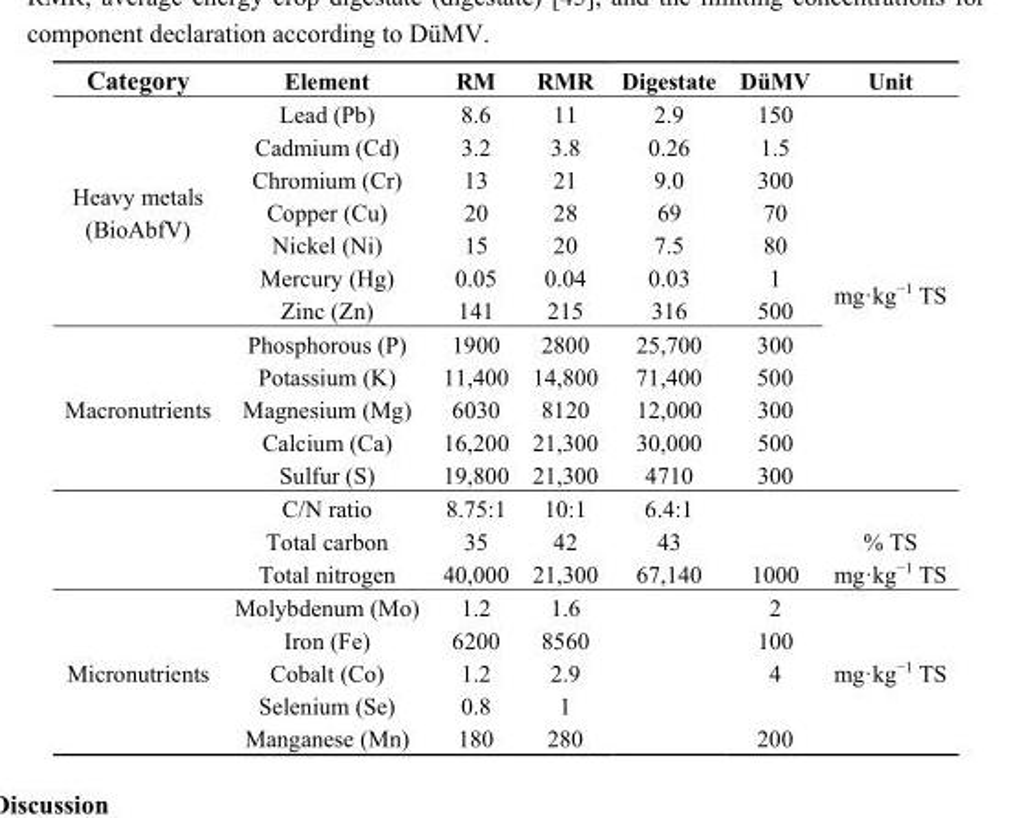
<table><thead><tr><td>Category</td><td>Element</td><td>RM</td><td>RMR</td><td>Digestate</td><td>DüMV</td><td>Unit</td></tr></thead><tbody><tr><td rowspan="7">Heavy metals (BioAbfV)</td><td>Lead (Pb)</td><td>8.6</td><td>11</td><td>2.9</td><td>150</td><td rowspan="12">mg·kg<sup>−1</sup> TS</td></tr><tr><td>Cadmium (Cd)</td><td>3.2</td><td>3.8</td><td>0.26</td><td>1.5</td></tr><tr><td>Chromium (Cr)</td><td>13</td><td>21</td><td>9.0</td><td>300</td></tr><tr><td>Copper (Cu)</td><td>20</td><td>28</td><td>69</td><td>70</td></tr><tr><td>Nickel (Ni)</td><td>15</td><td>20</td><td>7.5</td><td>80</td></tr><tr><td>Mercury (Hg)</td><td>0.05</td><td>0.04</td><td>0.03</td><td>1</td></tr><tr><td>Zinc (Zn)</td><td>141</td><td>215</td><td>316</td><td>500</td></tr><tr><td rowspan="8">Macronutrients</td><td>Phosphorous (P)</td><td>1900</td><td>2800</td><td>25,700</td><td>300</td></tr><tr><td>Potassium (K)</td><td>11,400</td><td>14,800</td><td>71,400</td><td>500</td></tr><tr><td>Magnesium (Mg)</td><td>6030</td><td>8120</td><td>12,000</td><td>300</td></tr><tr><td>Calcium (Ca)</td><td>16,200</td><td>21,300</td><td>30,000</td><td>500</td></tr><tr><td>Sulfur (S)</td><td>19,800</td><td>21,300</td><td>4710</td><td>300</td></tr><tr><td>C/N ratio</td><td>8.75:1</td><td>10:1</td><td>6.4:1</td><td></td><td></td></tr><tr><td>Total carbon</td><td>35</td><td>42</td><td>43</td><td></td><td>% TS</td></tr><tr><td>Total nitrogen</td><td>40,000</td><td>21,300</td><td>67,140</td><td>1000</td><td>mg·kg<sup>−1</sup> TS</td></tr><tr><td rowspan="5">Micronutrients</td><td>Molybdenum (Mo)</td><td>1.2</td><td>1.6</td><td></td><td>2</td><td rowspan="5">mg·kg<sup>−1</sup> TS</td></tr><tr><td>Iron (Fe)</td><td>6200</td><td>8560</td><td></td><td>100</td></tr><tr><td>Cobalt (Co)</td><td>1.2</td><td>2.9</td><td></td><td>4</td></tr><tr><td>Selenium (Se)</td><td>0.8</td><td>1</td><td></td><td></td></tr><tr><td>Manganese (Mn)</td><td>180</td><td>280</td><td></td><td>200</td></tr></tbody></table>